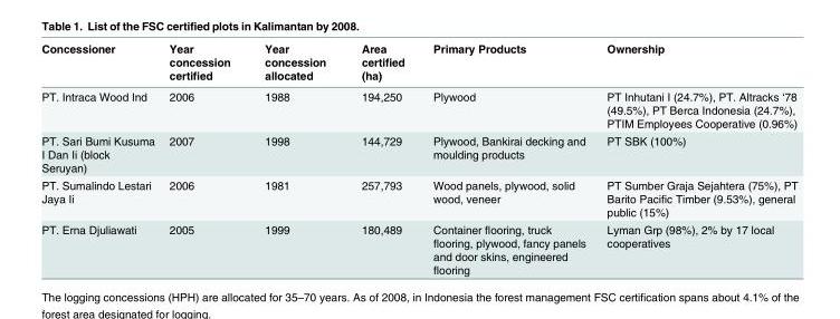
<table><thead><tr><td>Concessioner</td><td>Year concession certified</td><td>Year concession allocated</td><td>Area certified (ha)</td><td>Primary Products</td><td>Ownership</td></tr></thead><tbody><tr><td>PT. Intraca Wood Ind</td><td>2006</td><td>1988</td><td>194,250</td><td>Plywood</td><td>PT Inhutani I (24.7%), PT. Altracks ‘78 (49.5%), PT Berca Indonesia (24.7%), PTIM Employees Cooperative (0.96%)</td></tr><tr><td>PT. Sari Bumi Kusuma I Dan Ii (block Seruyan)</td><td>2007</td><td>1998</td><td>144,729</td><td>Plywood, Bankirai decking and moulding products</td><td>PT SBK (100%)</td></tr><tr><td>PT. Sumalindo Lestari Jaya Ii</td><td>2006</td><td>1981</td><td>257,793</td><td>Wood panels, plywood, solid wood, veneer</td><td>PT Sumber Graja Sejahtera (75%), PT Barito Pacific Timber (9.53%), general public (15%)</td></tr><tr><td>PT. Erna Djuliawati</td><td>2005</td><td>1999</td><td>180,489</td><td>Container flooring, truck flooring, plywood, fancy panels and door skins, engineered flooring</td><td>Lyman Grp (98%), 2% by 17 local cooperatives</td></tr></tbody></table>